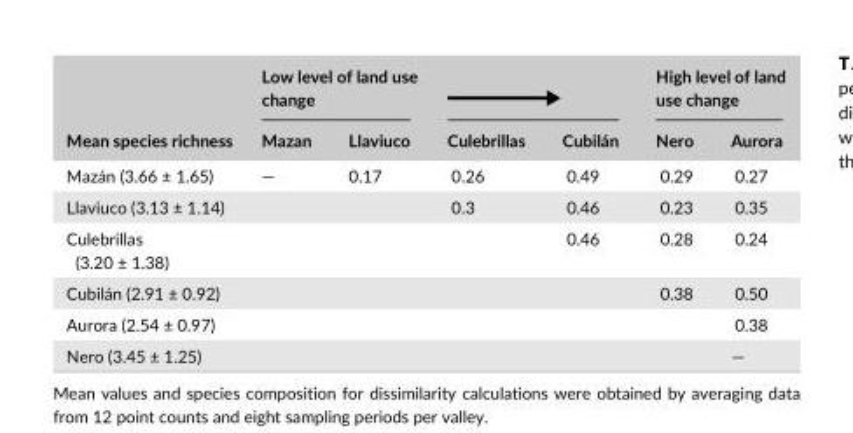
<table><thead><tr><td rowspan="2">Mean species richness</td><td colspan="2">Low level of land use change</td><td rowspan="2">Culebrillas</td><td rowspan="2">Cubilán</td><td colspan="2">High level of land use change</td></tr><tr><td>Mazan</td><td>Llaviuco</td><td>Nero</td><td>Aurora</td></tr></thead><tbody><tr><td>Mazán (3.66 ± 1.65)</td><td>—</td><td>0.17</td><td>0.26</td><td>0.49</td><td>0.29</td><td>0.27</td></tr><tr><td>Llaviuco (3.13 ± 1.14)</td><td></td><td></td><td>0.3</td><td>0.46</td><td>0.23</td><td>0.35</td></tr><tr><td>Culebrillas (3.20 ± 1.38)</td><td></td><td></td><td></td><td>0.46</td><td>0.28</td><td>0.24</td></tr><tr><td>Cubilán (2.91 ± 0.92)</td><td></td><td></td><td></td><td></td><td>0.38</td><td>0.50</td></tr><tr><td>Aurora (2.54 ± 0.97)</td><td></td><td></td><td></td><td></td><td></td><td>0.38</td></tr><tr><td>Nero (3.45 ± 1.25)</td><td></td><td></td><td></td><td></td><td></td><td>—</td></tr></tbody></table>